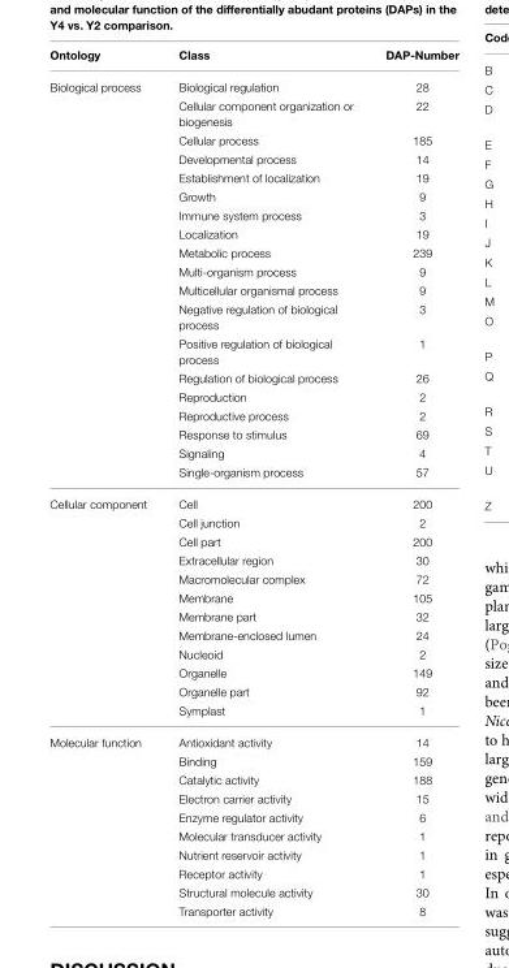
<table><thead><tr><td>Ontology</td><td>Class</td><td>DAP-Number</td></tr></thead><tbody><tr><td rowspan="19">Biological process</td><td>Biological regulation</td><td>28</td></tr><tr><td>Cellular component organization or biogenesis</td><td>22</td></tr><tr><td>Cellular process</td><td>185</td></tr><tr><td>Developmental process</td><td>14</td></tr><tr><td>Establishment of localization</td><td>19</td></tr><tr><td>Growth</td><td>9</td></tr><tr><td>Immune system process</td><td>3</td></tr><tr><td>Localization</td><td>19</td></tr><tr><td>Metabolic process</td><td>239</td></tr><tr><td>Multi-organism process</td><td>9</td></tr><tr><td>Multicellular organismal process</td><td>9</td></tr><tr><td>Negative regulation of biological process</td><td>3</td></tr><tr><td>Positive regulation of biological process</td><td>1</td></tr><tr><td>Regulation of biological process</td><td>26</td></tr><tr><td>Reproduction</td><td>2</td></tr><tr><td>Reproductive process</td><td>2</td></tr><tr><td>Response to stimulus</td><td>69</td></tr><tr><td>Signaling</td><td>4</td></tr><tr><td>Single-organism process</td><td>57</td></tr><tr><td rowspan="12">Cellular component</td><td>Cell</td><td>200</td></tr><tr><td>Cell junction</td><td>2</td></tr><tr><td>Cell part</td><td>200</td></tr><tr><td>Extracellular region</td><td>30</td></tr><tr><td>Macromolecular complex</td><td>72</td></tr><tr><td>Membrane</td><td>105</td></tr><tr><td>Membrane part</td><td>32</td></tr><tr><td>Membrane-enclosed lumen</td><td>24</td></tr><tr><td>Nucleoid</td><td>2</td></tr><tr><td>Organelle</td><td>149</td></tr><tr><td>Organelle part</td><td>92</td></tr><tr><td>Symplast</td><td>1</td></tr><tr><td rowspan="10">Molecular function</td><td>Antioxidant activity</td><td>14</td></tr><tr><td>Binding</td><td>159</td></tr><tr><td>Catalytic activity</td><td>188</td></tr><tr><td>Electron carrier activity</td><td>15</td></tr><tr><td>Enzyme regulator activity</td><td>6</td></tr><tr><td>Molecular transducer activity</td><td>1</td></tr><tr><td>Nutrient reservoir activity</td><td>1</td></tr><tr><td>Receptor activity</td><td>1</td></tr><tr><td>Structural molecule activity</td><td>30</td></tr><tr><td>Transporter activity</td><td>8</td></tr></tbody></table>